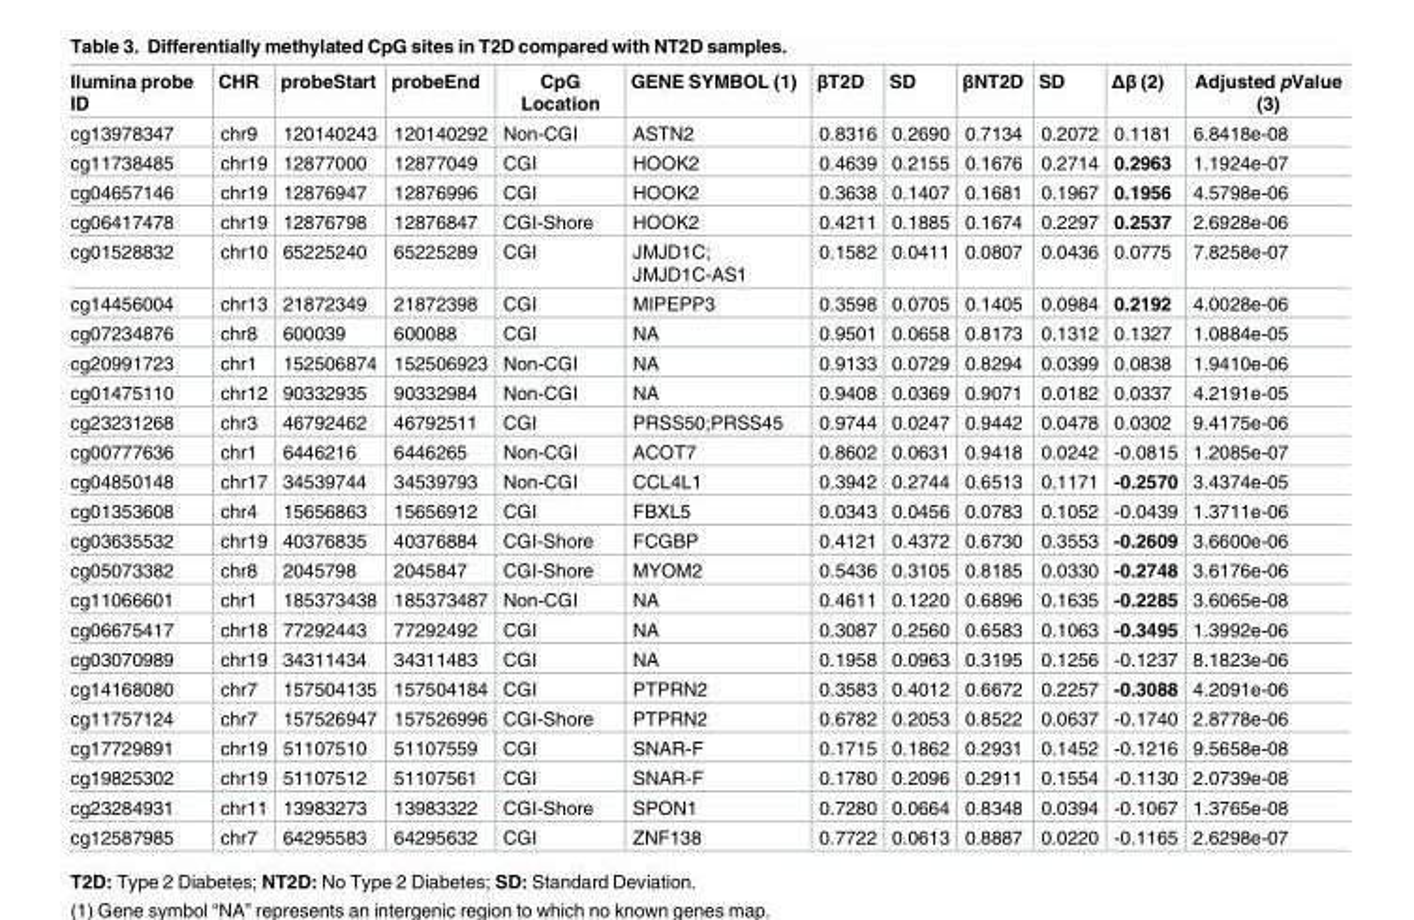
<table><thead><tr><td>Ilumina probe ID</td><td>CHR</td><td>probeStart</td><td>probeEnd</td><td>CpG Location</td><td>GENE SYMBOL (1)</td><td>βT2D</td><td>SD</td><td>βNT2D</td><td>SD</td><td>Δβ (2)</td><td>Adjusted pValue (3)</td></tr></thead><tbody><tr><td>cg13978347</td><td>chr9</td><td>120140243</td><td>120140292</td><td>Non-CGI</td><td>ASTN2</td><td>0.8316</td><td>0.2690</td><td>0.7134</td><td>0.2072</td><td>0.1181</td><td>6.8418e-08</td></tr><tr><td>cg11738485</td><td>chr19</td><td>12877000</td><td>12877049</td><td>CGI</td><td>HOOK2</td><td>0.4639</td><td>0.2155</td><td>0.1676</td><td>0.2714</td><td>0.2963</td><td>1.1924e-07</td></tr><tr><td>cg04657146</td><td>chr19</td><td>12876947</td><td>12876996</td><td>CGI</td><td>HOOK2</td><td>0.3638</td><td>0.1407</td><td>0.1681</td><td>0.1967</td><td>0.1956</td><td>4.5798e-06</td></tr><tr><td>cg06417478</td><td>chr19</td><td>12876798</td><td>12876847</td><td>CGI-Shore</td><td>HOOK2</td><td>0.4211</td><td>0.1885</td><td>0.1674</td><td>0.2297</td><td>0.2537</td><td>2.6928e-06</td></tr><tr><td>cg01528832</td><td>chr10</td><td>65225240</td><td>65225289</td><td>CGI</td><td>JMJD1C; JMJD1C-AS1</td><td>0.1582</td><td>0.0411</td><td>0.0807</td><td>0.0436</td><td>0.0775</td><td>7.8258e-07</td></tr><tr><td>cg14456004</td><td>chr13</td><td>21872349</td><td>21872398</td><td>CGI</td><td>MIPEPP3</td><td>0.3598</td><td>0.0705</td><td>0.1405</td><td>0.0984</td><td>0.2192</td><td>4.0028e-06</td></tr><tr><td>cg07234876</td><td>chr8</td><td>600039</td><td>600088</td><td>CGI</td><td>NA</td><td>0.9501</td><td>0.0658</td><td>0.8173</td><td>0.1312</td><td>0.1327</td><td>1.0884e-05</td></tr><tr><td>cg20991723</td><td>chr1</td><td>152506874</td><td>152506923</td><td>Non-CGI</td><td>NA</td><td>0.9133</td><td>0.0729</td><td>0.8294</td><td>0.0399</td><td>0.0838</td><td>1.9410e-06</td></tr><tr><td>cg01475110</td><td>chr12</td><td>90332935</td><td>90332984</td><td>Non-CGI</td><td>NA</td><td>0.9408</td><td>0.0369</td><td>0.9071</td><td>0.0182</td><td>0.0337</td><td>4.2191e-05</td></tr><tr><td>cg23231268</td><td>chr3</td><td>46792462</td><td>46792511</td><td>CGI</td><td>PRSS50;PRSS45</td><td>0.9744</td><td>0.0247</td><td>0.9442</td><td>0.0478</td><td>0.0302</td><td>9.4175e-06</td></tr><tr><td>cg00777636</td><td>chr1</td><td>6446216</td><td>6446265</td><td>Non-CGI</td><td>ACOT7</td><td>0.8602</td><td>0.0631</td><td>0.9418</td><td>0.0242</td><td>-0.0815</td><td>1.2085e-07</td></tr><tr><td>cg04850148</td><td>chr17</td><td>34539744</td><td>34539793</td><td>Non-CGI</td><td>CCL4L1</td><td>0.3942</td><td>0.2744</td><td>0.6513</td><td>0.1171</td><td>-0.2570</td><td>3.4374e-05</td></tr><tr><td>cg01353608</td><td>chr4</td><td>15656863</td><td>15656912</td><td>CGI</td><td>FBXL5</td><td>0.0343</td><td>0.0456</td><td>0.0783</td><td>0.1052</td><td>-0.0439</td><td>1.3711e-06</td></tr><tr><td>cg03635532</td><td>chr19</td><td>40376835</td><td>40376884</td><td>CGI-Shore</td><td>FCGBP</td><td>0.4121</td><td>0.4372</td><td>0.6730</td><td>0.3553</td><td>-0.2609</td><td>3.6600e-06</td></tr><tr><td>cg05073382</td><td>chr8</td><td>2045798</td><td>2045847</td><td>CGI-Shore</td><td>MYOM2</td><td>0.5436</td><td>0.3105</td><td>0.8185</td><td>0.0330</td><td>-0.2748</td><td>3.6176e-06</td></tr><tr><td>cg11066601</td><td>chr1</td><td>185373438</td><td>185373487</td><td>Non-CGI</td><td>NA</td><td>0.4611</td><td>0.1220</td><td>0.6896</td><td>0.1635</td><td>-0.2285</td><td>3.6065e-08</td></tr><tr><td>cg06675417</td><td>chr18</td><td>77292443</td><td>77292492</td><td>CGI</td><td>NA</td><td>0.3087</td><td>0.2560</td><td>0.6583</td><td>0.1063</td><td>-0.3495</td><td>1.3992e-06</td></tr><tr><td>cg03070989</td><td>chr19</td><td>34311434</td><td>34311483</td><td>CGI</td><td>NA</td><td>0.1958</td><td>0.0963</td><td>0.3195</td><td>0.1256</td><td>-0.1237</td><td>8.1823e-06</td></tr><tr><td>cg14168080</td><td>chr7</td><td>157504135</td><td>157504184</td><td>CGI</td><td>PTPRN2</td><td>0.3583</td><td>0.4012</td><td>0.6672</td><td>0.2257</td><td>-0.3088</td><td>4.2091e-06</td></tr><tr><td>cg11757124</td><td>chr7</td><td>157526947</td><td>157526996</td><td>CGI-Shore</td><td>PTPRN2</td><td>0.6782</td><td>0.2053</td><td>0.8522</td><td>0.0637</td><td>-0.1740</td><td>2.8778e-06</td></tr><tr><td>cg17729891</td><td>chr19</td><td>51107510</td><td>51107559</td><td>CGI</td><td>SNAR-F</td><td>0.1715</td><td>0.1862</td><td>0.2931</td><td>0.1452</td><td>-0.1216</td><td>9.5658e-08</td></tr><tr><td>cg19825302</td><td>chr19</td><td>51107512</td><td>51107561</td><td>CGI</td><td>SNAR-F</td><td>0.1780</td><td>0.2096</td><td>0.2911</td><td>0.1554</td><td>-0.1130</td><td>2.0739e-08</td></tr><tr><td>cg23284931</td><td>chr11</td><td>13983273</td><td>13983322</td><td>CGI-Shore</td><td>SPON1</td><td>0.7280</td><td>0.0664</td><td>0.8348</td><td>0.0394</td><td>-0.1067</td><td>1.3765e-08</td></tr><tr><td>cg12587985</td><td>chr7</td><td>64295583</td><td>64295632</td><td>CGI</td><td>ZNF138</td><td>0.7722</td><td>0.0613</td><td>0.8887</td><td>0.0220</td><td>-0.1165</td><td>2.6298e-07</td></tr></tbody></table>